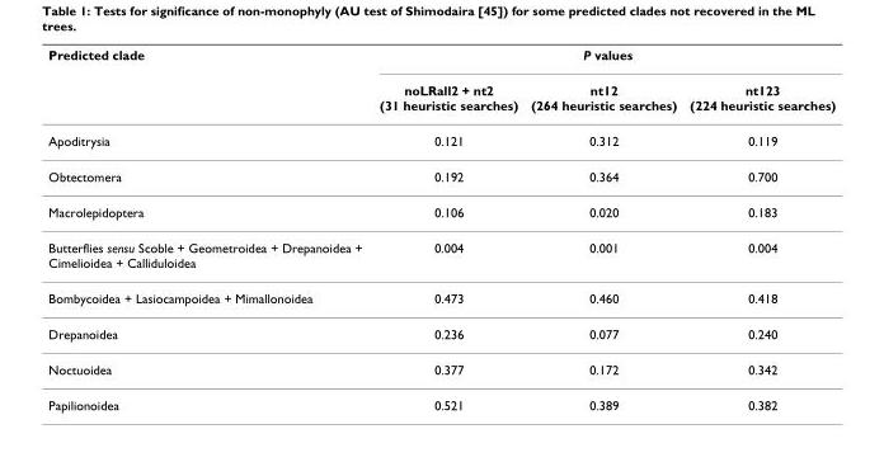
<table><thead><tr><td rowspan="2">Predicted clade</td><td colspan="3">P values</td></tr><tr><td>noLRall2 + nt2 (31 heuristic searches)</td><td>nt12 (264 heuristic searches)</td><td>nt123 (224 heuristic searches)</td></tr></thead><tbody><tr><td>Apoditrysia</td><td>0.121</td><td>0.312</td><td>0.119</td></tr><tr><td>Obtectomera</td><td>0.192</td><td>0.364</td><td>0.700</td></tr><tr><td>Macrolepidoptera</td><td>0.106</td><td>0.020</td><td>0.183</td></tr><tr><td>Butterflies sensu Scoble + Geometroidea + Drepanoidea + Cimelioidea + Calliduloidea</td><td>0.004</td><td>0.001</td><td>0.004</td></tr><tr><td>Bombycoidea + Lasiocampoidea + Mimallonoidea</td><td>0.473</td><td>0.460</td><td>0.418</td></tr><tr><td>Drepanoidea</td><td>0.236</td><td>0.077</td><td>0.240</td></tr><tr><td>Noctuoidea</td><td>0.377</td><td>0.172</td><td>0.342</td></tr><tr><td>Papilionoidea</td><td>0.521</td><td>0.389</td><td>0.382</td></tr></tbody></table>